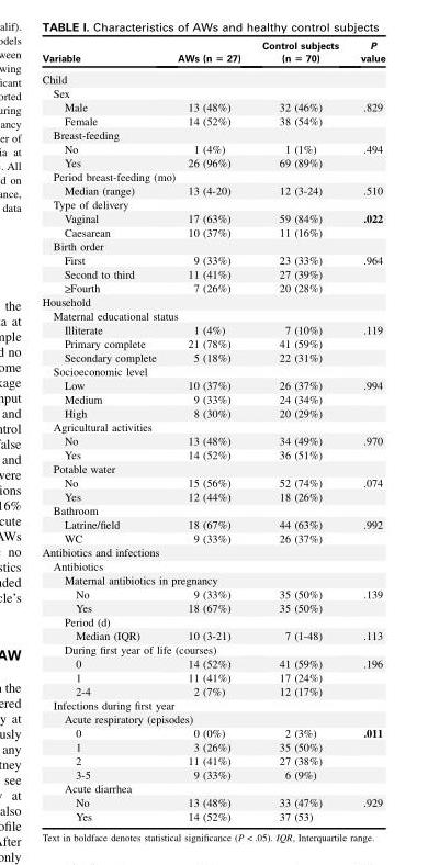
<table><thead><tr><td>Variable</td><td>AWs (n = 27)</td><td>Control subjects (n = 70)</td><td>P value</td></tr></thead><tbody><tr><td colspan="4">Child</td></tr><tr><td colspan="4">Sex</td></tr><tr><td>Male</td><td>13 (48%)</td><td>32 (46%)</td><td>.829</td></tr><tr><td>Female</td><td>14 (52%)</td><td>38 (54%)</td><td></td></tr><tr><td colspan="4">Breast-feeding</td></tr><tr><td>No</td><td>1 (4%)</td><td>1 (1%)</td><td>.494</td></tr><tr><td>Yes</td><td>26 (96%)</td><td>69 (89%)</td><td></td></tr><tr><td colspan="4">Period breast-feeding (mo)</td></tr><tr><td>Median (range)</td><td>13 (4-20)</td><td>12 (3-24)</td><td>.510</td></tr><tr><td colspan="4">Type of delivery</td></tr><tr><td>Vaginal</td><td>17 (63%)</td><td>59 (84%)</td><td>.022</td></tr><tr><td>Caesarean</td><td>10 (37%)</td><td>11 (16%)</td><td></td></tr><tr><td colspan="4">Birth order</td></tr><tr><td>First</td><td>9 (33%)</td><td>23 (33%)</td><td>.964</td></tr><tr><td>Second to third</td><td>11 (41%)</td><td>27 (39%)</td><td></td></tr><tr><td>&gt;_Fourth</td><td>7 (26%)</td><td>20 (28%)</td><td></td></tr><tr><td colspan="4">Household</td></tr><tr><td colspan="4">Maternal educational status</td></tr><tr><td>Illiterate</td><td>1 (4%)</td><td>7 (10%)</td><td>.119</td></tr><tr><td>Primary complete</td><td>21 (78%)</td><td>41 (59%)</td><td></td></tr><tr><td>Secondary complete</td><td>5 (18%)</td><td>22 (31%)</td><td></td></tr><tr><td colspan="4">Socioeconomic level</td></tr><tr><td>Low</td><td>10 (37%)</td><td>26 (37%)</td><td>.994</td></tr><tr><td>Medium</td><td>9 (33%)</td><td>24 (34%)</td><td></td></tr><tr><td>High</td><td>8 (30%)</td><td>20 (29%)</td><td></td></tr><tr><td colspan="4">Agricultural activities</td></tr><tr><td>No</td><td>13 (48%)</td><td>34 (49%)</td><td>.970</td></tr><tr><td>Yes</td><td>14 (52%)</td><td>36 (51%)</td><td></td></tr><tr><td colspan="4">Potable water</td></tr><tr><td>No</td><td>15 (56%)</td><td>52 (74%)</td><td>.074</td></tr><tr><td>Yes</td><td>12 (44%)</td><td>18 (26%)</td><td></td></tr><tr><td colspan="4">Bathroom</td></tr><tr><td>Latrine/field</td><td>18 (67%)</td><td>44 (63%)</td><td>.992</td></tr><tr><td>WC</td><td>9 (33%)</td><td>26 (37%)</td><td></td></tr><tr><td colspan="4">Antibiotics and infections</td></tr><tr><td colspan="4">Antibiotics</td></tr><tr><td colspan="4">Maternal antibiotics in pregnancy</td></tr><tr><td>No</td><td>9 (33%)</td><td>35 (50%)</td><td>.139</td></tr><tr><td>Yes</td><td>18 (67%)</td><td>35 (50%)</td><td></td></tr><tr><td colspan="4">Period (d)</td></tr><tr><td>Median (IQR)</td><td>10 (3-21)</td><td>7 (1-48)</td><td>.113</td></tr><tr><td colspan="4">During first year of life (courses)</td></tr><tr><td>0</td><td>14 (52%)</td><td>41 (59%)</td><td>.196</td></tr><tr><td>1</td><td>11 (41%)</td><td>17 (24%)</td><td></td></tr><tr><td>2-4</td><td>2 (7%)</td><td>12 (17%)</td><td></td></tr><tr><td colspan="4">Infections during first year</td></tr><tr><td colspan="4">Acute respiratory (episodes)</td></tr><tr><td>0</td><td>0 (0%)</td><td>2 (3%)</td><td>.011</td></tr><tr><td>1</td><td>3 (26%)</td><td>35 (50%)</td><td></td></tr><tr><td>2</td><td>11 (41%)</td><td>27 (38%)</td><td></td></tr><tr><td>3-5</td><td>9 (33%)</td><td>6 (9%)</td><td></td></tr><tr><td colspan="4">Acute diarrhea</td></tr><tr><td>No</td><td>13 (48%)</td><td>33 (47%)</td><td>.929</td></tr><tr><td>Yes</td><td>14 (52%)</td><td>37 (53)</td><td></td></tr></tbody></table>